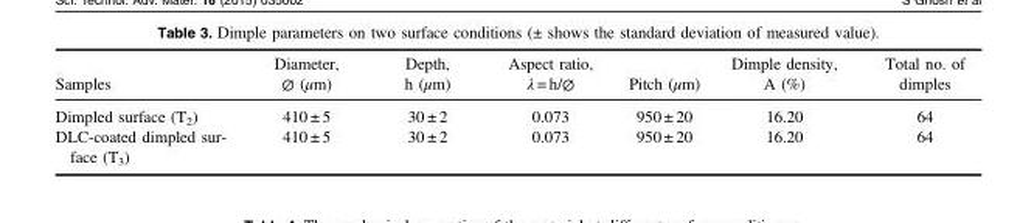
<table><thead><tr><td>Samples</td><td>Diameter, ∅ (μm)</td><td>Depth, h (μm)</td><td>Aspect ratio, λ = h/∅</td><td>Pitch (μm)</td><td>Dimple density, A (%)</td><td>Total no. of dimples</td></tr></thead><tbody><tr><td>Dimpled surface (T<sub>2</sub>)</td><td>410 ± 5</td><td>30 ± 2</td><td>0.073</td><td>950 ± 20</td><td>16.20</td><td>64</td></tr><tr><td>DLC-coated dimpled sur- face (T3)</td><td>410 ± 5</td><td>30 ± 2</td><td>0.073</td><td>950 ± 20</td><td>16.20</td><td>64</td></tr></tbody></table>